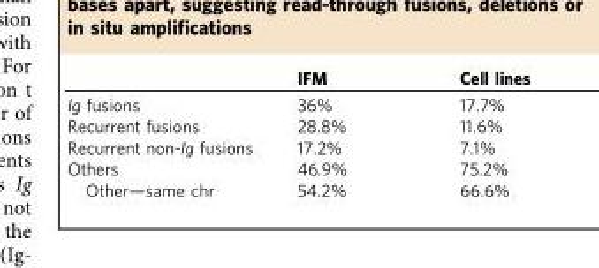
<table><thead><tr><td></td><td>IFM</td><td>Cell lines</td></tr></thead><tbody><tr><td>Ig fusions</td><td>36%</td><td>17.7%</td></tr><tr><td>Recurrent fusions</td><td>28.8%</td><td>11.6%</td></tr><tr><td>Recurrent non-Ig fusions</td><td>17.2%</td><td>7.1%</td></tr><tr><td>Others</td><td>46.9%</td><td>75.2%</td></tr><tr><td>Other—same chr</td><td>54.2%</td><td>66.6%</td></tr></tbody></table>